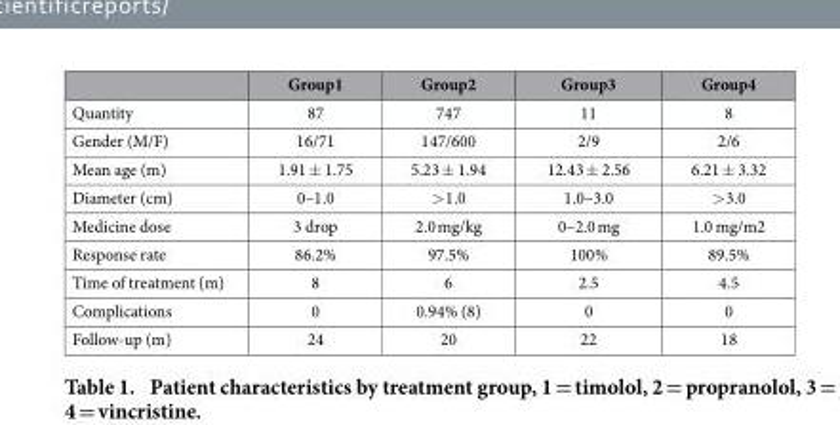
<table><thead><tr><td></td><td>Group1</td><td>Group2</td><td>Group3</td><td>Group4</td></tr></thead><tbody><tr><td>Quantity</td><td>87</td><td>747</td><td>11</td><td>8</td></tr><tr><td>Gender (M/F)</td><td>16/71</td><td>147/600</td><td>2/9</td><td>2/6</td></tr><tr><td>Mean age (m)</td><td>1.91 ± 1.75</td><td>5.23 ± 1.94</td><td>12.43 ± 2.56</td><td>6.21 ± 3.32</td></tr><tr><td>Diameter (cm)</td><td>0–1.0</td><td>&gt; 1.0</td><td>1.0–3.0</td><td>&gt; 3.0</td></tr><tr><td>Medicine dose</td><td>3 drop</td><td>2.0 mg/kg</td><td>0–2.0 mg</td><td>1.0 mg/m2</td></tr><tr><td>Response rate</td><td>86.2%</td><td>97.5%</td><td>100%</td><td>89.5%</td></tr><tr><td>Time of treatment (m)</td><td>8</td><td>6</td><td>2.5</td><td>4.5</td></tr><tr><td>Complications</td><td>0</td><td>0.94% (8)</td><td>0</td><td>0</td></tr><tr><td>Follow-up (m)</td><td>24</td><td>20</td><td>22</td><td>18</td></tr></tbody></table>